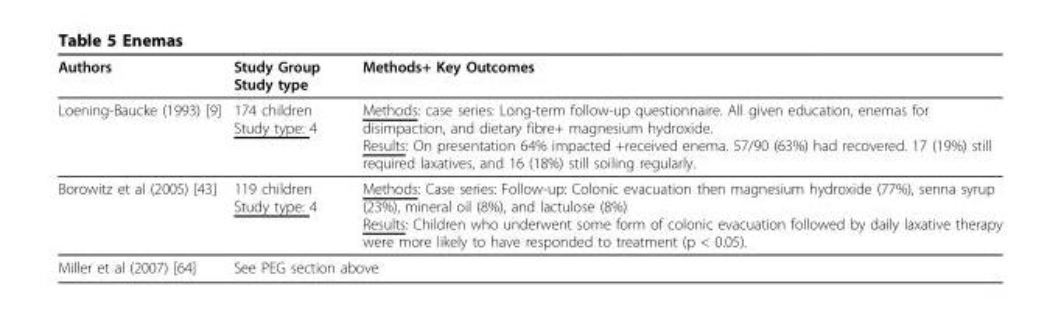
<table><thead><tr><td>Authors</td><td>Study Group Study type</td><td>Methods+ Key Outcomes</td></tr></thead><tbody><tr><td>Loening-Baucke (1993) [9]</td><td>174 children Study type: 4</td><td>Methods: case series: Long-term follow-up questionnaire. All given education, enemas for disimpaction, and dietary fibre+ magnesium hydroxide. Results: On presentation 64% impacted +received enema. 57/90 (63%) had recovered. 17 (19%) still required laxatives, and 16 (18%) still soiling regularly.</td></tr><tr><td>Borowitz et al (2005) [43]</td><td>119 children Study type: 4</td><td>Methods: Case series: Follow-up: Colonic evacuation then magnesium hydroxide (77%), senna syrup (23%), mineral oil (8%), and lactulose (8%) Results: Children who underwent some form of colonic evacuation followed by daily laxative therapy were more likely to have responded to treatment (p &lt; 0.05).</td></tr><tr><td>Miller et al (2007) [64]</td><td colspan="2">See PEG section above</td></tr></tbody></table>